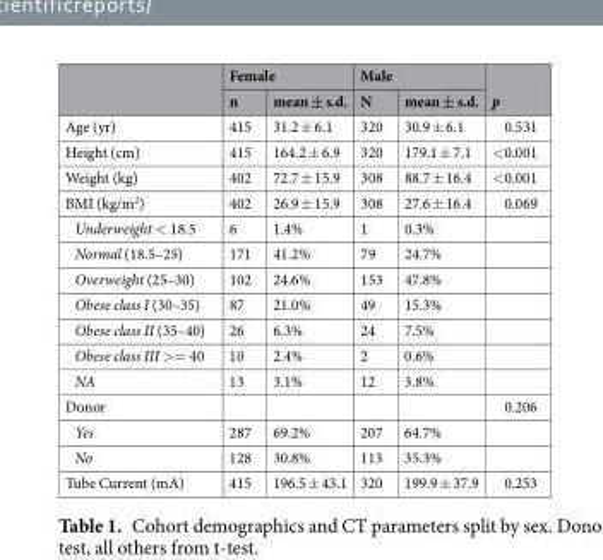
<table><thead><tr><td rowspan="2"></td><td colspan="2">Female</td><td colspan="2">Male</td><td rowspan="2">p</td></tr><tr><td>n</td><td>mean ± s.d.</td><td>N</td><td>mean ± s.d.</td></tr></thead><tbody><tr><td>Age (yr)</td><td>415</td><td>31.2 ± 6.1</td><td>320</td><td>30.9 ± 6.1</td><td>0.531</td></tr><tr><td>Height (cm)</td><td>415</td><td>164.2 ± 6.9</td><td>320</td><td>179.1 ± 7.1</td><td>&lt;0.001</td></tr><tr><td>Weight (kg)</td><td>402</td><td>72.7 ± 15.9</td><td>308</td><td>88.7 ± 16.4</td><td>&lt;0.001</td></tr><tr><td>BMI (kg/m<sup>2</sup>)</td><td>402</td><td>26.9 ± 15.9</td><td>308</td><td>27.6 ± 16.4</td><td>0.069</td></tr><tr><td>Underweight &lt; 18.5</td><td>6</td><td>1.4%</td><td>1</td><td>0.3%</td><td></td></tr><tr><td>Normal (18.5–25)</td><td>171</td><td>41.2%</td><td>79</td><td>24.7%</td><td></td></tr><tr><td>Overweight (25–30)</td><td>102</td><td>24.6%</td><td>153</td><td>47.8%</td><td></td></tr><tr><td>Obese class I (30–35)</td><td>87</td><td>21.0%</td><td>49</td><td>15.3%</td><td></td></tr><tr><td>Obese class II (35–40)</td><td>26</td><td>6.3%</td><td>24</td><td>7.5%</td><td></td></tr><tr><td>Obese class III &gt;= 40</td><td>10</td><td>2.4%</td><td>2</td><td>0.6%</td><td></td></tr><tr><td>NA</td><td>13</td><td>3.1%</td><td>12</td><td>3.8%</td><td></td></tr><tr><td>Donor</td><td></td><td></td><td></td><td></td><td>0.206</td></tr><tr><td>Yes</td><td>287</td><td>69.2%</td><td>207</td><td>64.7%</td><td></td></tr><tr><td>No</td><td>128</td><td>30.8%</td><td>113</td><td>35.3%</td><td></td></tr><tr><td>Tube Current (mA)</td><td>415</td><td>196.5 ± 43.1</td><td>320</td><td>199.9 ± 37.9</td><td>0.253</td></tr></tbody></table>